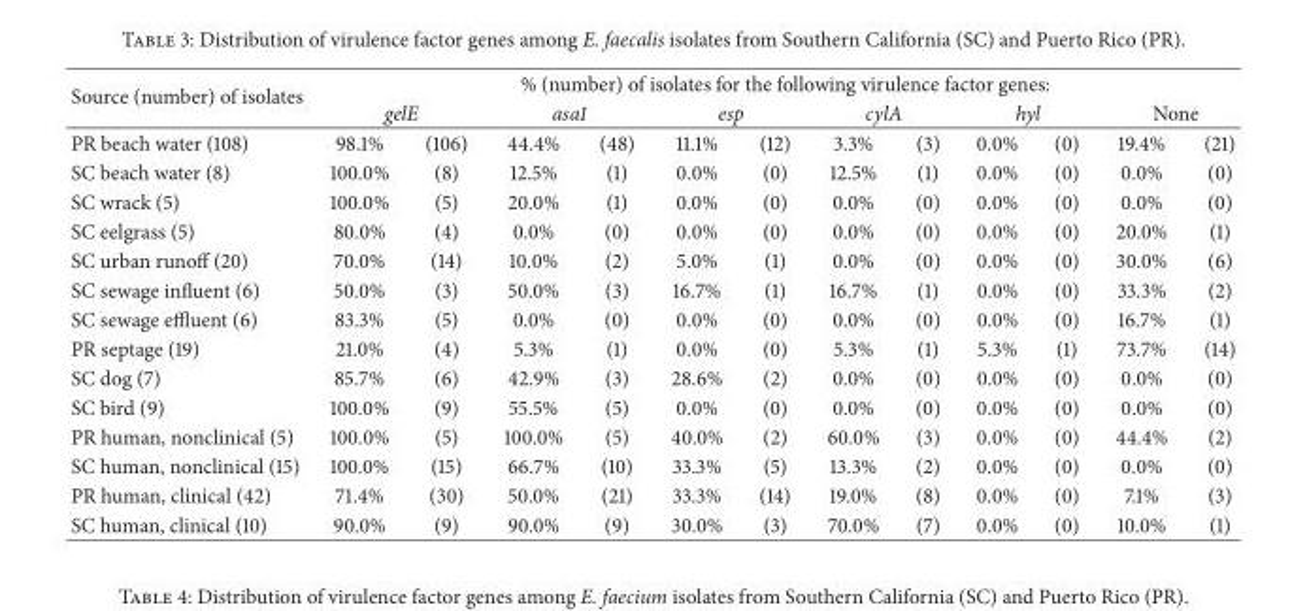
<table><thead><tr><td rowspan="3">Source (number) of isolates PR beach water (108)</td><td colspan="12">% (number) of isolates for the following virulence factor genes:</td></tr><tr><td colspan="2">gelE</td><td colspan="2">asa1</td><td colspan="2">esp</td><td colspan="2">cylA</td><td colspan="2">hyl</td><td colspan="2">None</td></tr><tr><td>98.1%</td><td>(106)</td><td>44.4%</td><td>(48)</td><td>11.1%</td><td>(12)</td><td>3.3%</td><td>(3)</td><td>0.0%</td><td>(0)</td><td>19.4%</td><td>(21)</td></tr></thead><tbody><tr><td>SC beach water (8)</td><td>100.0%</td><td>(8)</td><td>12.5%</td><td>(1)</td><td>0.0%</td><td>(0)</td><td>12.5%</td><td>(1)</td><td>0.0%</td><td>(0)</td><td>0.0%</td><td>(0)</td></tr><tr><td>SC wrack (5)</td><td>100.0%</td><td>(5)</td><td>20.0%</td><td>(1)</td><td>0.0%</td><td>(0)</td><td>0.0%</td><td>(0)</td><td>0.0%</td><td>(0)</td><td>0.0%</td><td>(0)</td></tr><tr><td>SC eelgrass (5)</td><td>80.0%</td><td>(4)</td><td>0.0%</td><td>(0)</td><td>0.0%</td><td>(0)</td><td>0.0%</td><td>(0)</td><td>0.0%</td><td>(0)</td><td>20.0%</td><td>(1)</td></tr><tr><td>SC urban runoff (20)</td><td>70.0%</td><td>(14)</td><td>10.0%</td><td>(2)</td><td>5.0%</td><td>(1)</td><td>0.0%</td><td>(0)</td><td>0.0%</td><td>(0)</td><td>30.0%</td><td>(6)</td></tr><tr><td>SC sewage influent (6)</td><td>50.0%</td><td>(3)</td><td>50.0%</td><td>(3)</td><td>16.7%</td><td>(1)</td><td>16.7%</td><td>(1)</td><td>0.0%</td><td>(0)</td><td>33.3%</td><td>(2)</td></tr><tr><td>SC sewage effluent (6)</td><td>83.3%</td><td>(5)</td><td>0.0%</td><td>(0)</td><td>0.0%</td><td>(0)</td><td>0.0%</td><td>(0)</td><td>0.0%</td><td>(0)</td><td>16.7%</td><td>(1)</td></tr><tr><td>PR septage (19)</td><td>21.0%</td><td>(4)</td><td>5.3%</td><td>(1)</td><td>0.0%</td><td>(0)</td><td>5.3%</td><td>(1)</td><td>5.3%</td><td>(1)</td><td>73.7%</td><td>(14)</td></tr><tr><td>SC dog (7)</td><td>85.7%</td><td>(6)</td><td>42.9%</td><td>(3)</td><td>28.6%</td><td>(2)</td><td>0.0%</td><td>(0)</td><td>0.0%</td><td>(0)</td><td>0.0%</td><td>(0)</td></tr><tr><td>SC bird (9)</td><td>100.0%</td><td>(9)</td><td>55.5%</td><td>(5)</td><td>0.0%</td><td>(0)</td><td>0.0%</td><td>(0)</td><td>0.0%</td><td>(0)</td><td>0.0%</td><td>(0)</td></tr><tr><td>PR human, nonclinical (5)</td><td>100.0%</td><td>(5)</td><td>100.0%</td><td>(5)</td><td>40.0%</td><td>(2)</td><td>60.0%</td><td>(3)</td><td>0.0%</td><td>(0)</td><td>44.4%</td><td>(2)</td></tr><tr><td>SC human, nonclinical (15)</td><td>100.0%</td><td>(15)</td><td>66.7%</td><td>(10)</td><td>33.3%</td><td>(5)</td><td>13.3%</td><td>(2)</td><td>0.0%</td><td>(0)</td><td>0.0%</td><td>(0)</td></tr><tr><td>PR human, clinical (42)</td><td>71.4%</td><td>(30)</td><td>50.0%</td><td>(21)</td><td>33.3%</td><td>(14)</td><td>19.0%</td><td>(8)</td><td>0.0%</td><td>(0)</td><td>7.1%</td><td>(3)</td></tr><tr><td>SC human, clinical (10)</td><td>90.0%</td><td>(9)</td><td>90.0%</td><td>(9)</td><td>30.0%</td><td>(3)</td><td>70.0%</td><td>(7)</td><td>0.0%</td><td>(0)</td><td>10.0%</td><td>(1)</td></tr></tbody></table>